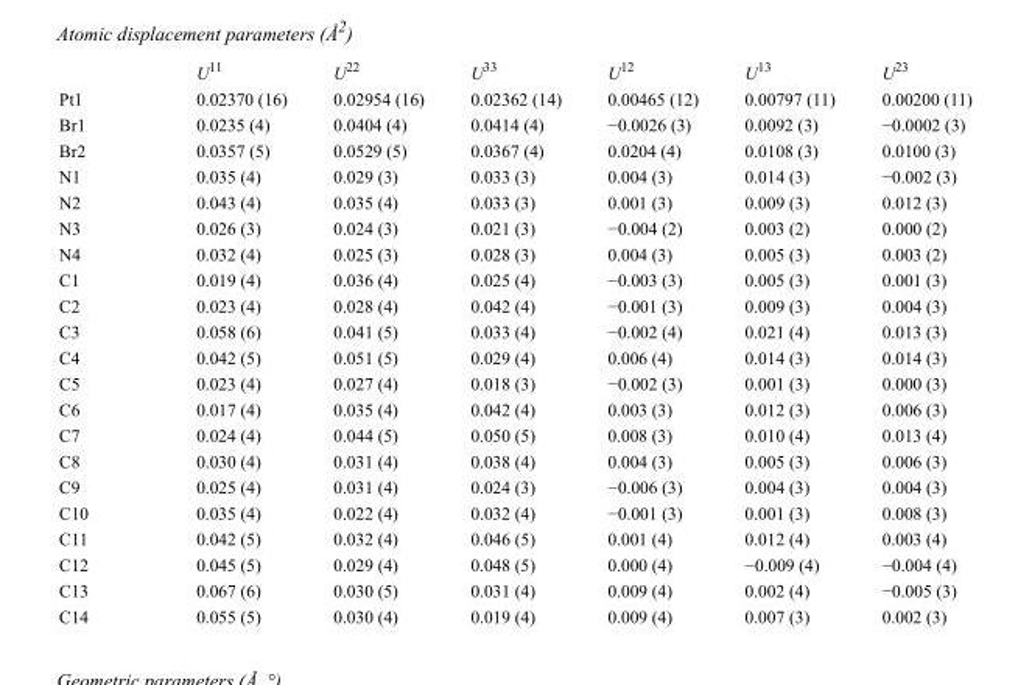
<table><thead><tr><td></td><td>U<sup>11</sup></td><td>U<sup>22</sup></td><td>U<sup>33</sup></td><td>U<sup>12</sup></td><td>U<sup>13</sup></td><td>U<sup>23</sup></td></tr></thead><tbody><tr><td>Pt1</td><td>0.02370 (16)</td><td>0.02954 (16)</td><td>0.02362 (14)</td><td>0.00465 (12)</td><td>0.00797 (11)</td><td>0.00200 (11)</td></tr><tr><td>Br1</td><td>0.0235 (4)</td><td>0.0404 (4)</td><td>0.0414 (4)</td><td>−0.0026 (3)</td><td>0.0092 (3)</td><td>−0.0002 (3)</td></tr><tr><td>Br2</td><td>0.0357 (5)</td><td>0.0529 (5)</td><td>0.0367 (4)</td><td>0.0204 (4)</td><td>0.0108 (3)</td><td>0.0100 (3)</td></tr><tr><td>N1</td><td>0.035 (4)</td><td>0.029 (3)</td><td>0.033 (3)</td><td>0.004 (3)</td><td>0.014 (3)</td><td>−0.002 (3)</td></tr><tr><td>N2</td><td>0.043 (4)</td><td>0.035 (4)</td><td>0.033 (3)</td><td>0.001 (3)</td><td>0.009 (3)</td><td>0.012 (3)</td></tr><tr><td>N3</td><td>0.026 (3)</td><td>0.024 (3)</td><td>0.021 (3)</td><td>−0.004 (2)</td><td>0.003 (2)</td><td>0.000 (2)</td></tr><tr><td>N4</td><td>0.032 (4)</td><td>0.025 (3)</td><td>0.028 (3)</td><td>0.004 (3)</td><td>0.005 (3)</td><td>0.003 (2)</td></tr><tr><td>C1</td><td>0.019 (4)</td><td>0.036 (4)</td><td>0.025 (4)</td><td>−0.003 (3)</td><td>0.005 (3)</td><td>0.001 (3)</td></tr><tr><td>C2</td><td>0.023 (4)</td><td>0.028 (4)</td><td>0.042 (4)</td><td>−0.001 (3)</td><td>0.009 (3)</td><td>0.004 (3)</td></tr><tr><td>C3</td><td>0.058 (6)</td><td>0.041 (5)</td><td>0.033 (4)</td><td>−0.002 (4)</td><td>0.021 (4)</td><td>0.013 (3)</td></tr><tr><td>C4</td><td>0.042 (5)</td><td>0.051 (5)</td><td>0.029 (4)</td><td>0.006 (4)</td><td>0.014 (3)</td><td>0.014 (3)</td></tr><tr><td>C5</td><td>0.023 (4)</td><td>0.027 (4)</td><td>0.018 (3)</td><td>−0.002 (3)</td><td>0.001 (3)</td><td>0.000 (3)</td></tr><tr><td>C6</td><td>0.017 (4)</td><td>0.035 (4)</td><td>0.042 (4)</td><td>0.003 (3)</td><td>0.012 (3)</td><td>0.006 (3)</td></tr><tr><td>C7</td><td>0.024 (4)</td><td>0.044 (5)</td><td>0.050 (5)</td><td>0.008 (3)</td><td>0.010 (4)</td><td>0.013 (4)</td></tr><tr><td>C8</td><td>0.030 (4)</td><td>0.031 (4)</td><td>0.038 (4)</td><td>0.004 (3)</td><td>0.005 (3)</td><td>0.006 (3)</td></tr><tr><td>C9</td><td>0.025 (4)</td><td>0.031 (4)</td><td>0.024 (3)</td><td>−0.006 (3)</td><td>0.004 (3)</td><td>0.004 (3)</td></tr><tr><td>C10</td><td>0.035 (4)</td><td>0.022 (4)</td><td>0.032 (4)</td><td>−0.001 (3)</td><td>0.001 (3)</td><td>0.008 (3)</td></tr><tr><td>C11</td><td>0.042 (5)</td><td>0.032 (4)</td><td>0.046 (5)</td><td>0.001 (4)</td><td>0.012 (4)</td><td>0.003 (4)</td></tr><tr><td>C12</td><td>0.045 (5)</td><td>0.029 (4)</td><td>0.048 (5)</td><td>0.000 (4)</td><td>−0.009 (4)</td><td>−0.004 (4)</td></tr><tr><td>C13</td><td>0.067 (6)</td><td>0.030 (5)</td><td>0.031 (4)</td><td>0.009 (4)</td><td>0.002 (4)</td><td>−0.005 (3)</td></tr><tr><td>C14</td><td>0.055 (5)</td><td>0.030 (4)</td><td>0.019 (4)</td><td>0.009 (4)</td><td>0.007 (3)</td><td>0.002 (3)</td></tr></tbody></table>